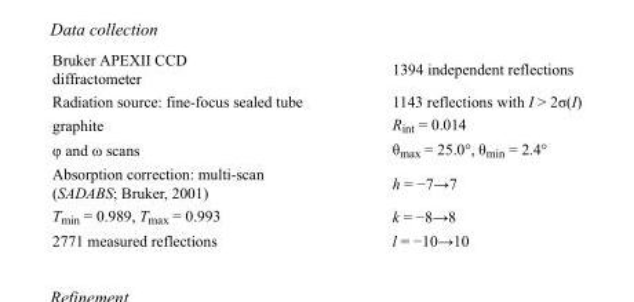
<table><tbody><tr><td>Bruker APEXII CCD diffractometer</td><td>1394 independent reflections</td></tr><tr><td>Radiation source: fine-focus sealed tube</td><td>1143 reflections with I &gt; 2σ(I)</td></tr><tr><td>graphite</td><td>R<sub>int</sub> = 0.014</td></tr><tr><td>φ and ω scans</td><td>θ<sub>max</sub> = 25.0°, θ<sub>min</sub> = 2.4°</td></tr><tr><td>Absorption correction: multi-scan (SADABS; Bruker, 2001)</td><td>h = −7→7</td></tr><tr><td>T<sub>min</sub> = 0.989, T<sub>max</sub> = 0.993</td><td>k = −8→8</td></tr><tr><td>2771 measured reflections</td><td>l = −10→10</td></tr></tbody></table>